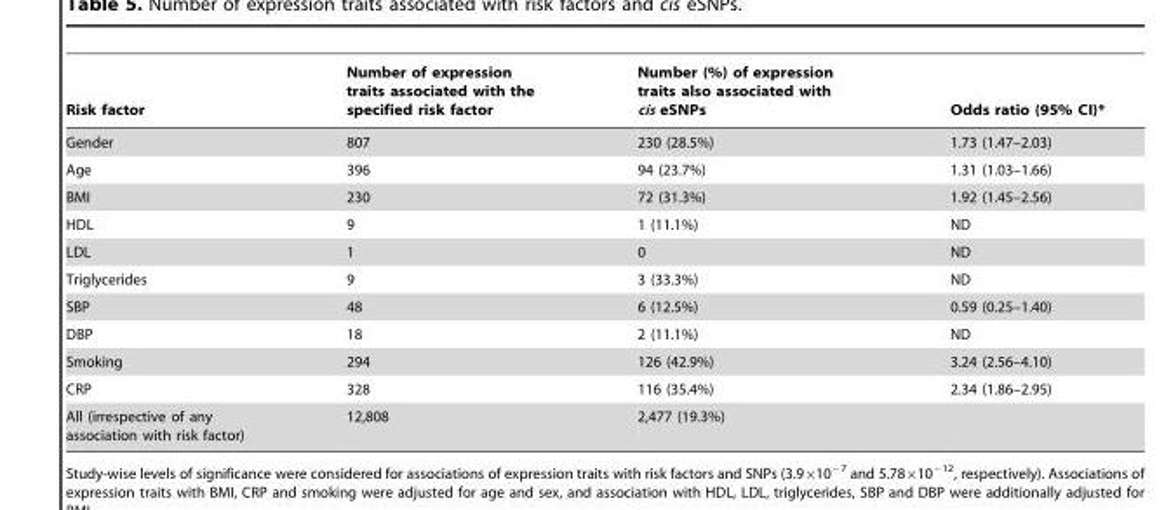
<table><thead><tr><td>Risk factor</td><td>Number of expression traits associated with the specified risk factor</td><td>Number (%) of expression traits also associated with cis eSNPs</td><td>Odds ratio (95% CI)*</td></tr></thead><tbody><tr><td>Gender</td><td>807</td><td>230 (28.5%)</td><td>1.73 (1.47–2.03)</td></tr><tr><td>Age</td><td>396</td><td>94 (23.7%)</td><td>1.31 (1.03–1.66)</td></tr><tr><td>BMI</td><td>230</td><td>72 (31.3%)</td><td>1.92 (1.45–2.56)</td></tr><tr><td>HDL</td><td>9</td><td>1 (11.1%)</td><td>ND</td></tr><tr><td>LDL</td><td>1</td><td>0</td><td>ND</td></tr><tr><td>Triglycerides</td><td>9</td><td>3 (33.3%)</td><td>ND</td></tr><tr><td>SBP</td><td>48</td><td>6 (12.5%)</td><td>0.59 (0.25–1.40)</td></tr><tr><td>DBP</td><td>18</td><td>2 (11.1%)</td><td>ND</td></tr><tr><td>Smoking</td><td>294</td><td>126 (42.9%)</td><td>3.24 (2.56–4.10)</td></tr><tr><td>CRP</td><td>328</td><td>116 (35.4%)</td><td>2.34 (1.86–2.95)</td></tr><tr><td>All (irrespective of any association with risk factor)</td><td>12,808</td><td>2,477 (19.3%)</td><td></td></tr></tbody></table>